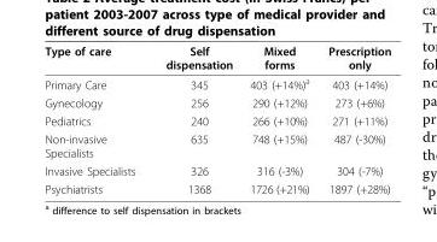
<table><thead><tr><td>Type of care</td><td>Self dispensation</td><td>Mixed forms</td><td>Prescription only</td></tr></thead><tbody><tr><td>Primary Care</td><td>345</td><td>403 (+14%)<sup>a</sup></td><td>403 (+14%)</td></tr><tr><td>Gynecology</td><td>256</td><td>290 (+12%)</td><td>273 (+6%)</td></tr><tr><td>Pediatrics</td><td>240</td><td>266 (+10%)</td><td>271 (+11%)</td></tr><tr><td>Non-invasive Specialists</td><td>635</td><td>748 (+15%)</td><td>487 (-30%)</td></tr><tr><td>Invasive Specialists</td><td>326</td><td>316 (-3%)</td><td>304 (-7%)</td></tr><tr><td>Psychiatrists</td><td>1368</td><td>1726 (+21%)</td><td>1897 (+28%)</td></tr></tbody></table>